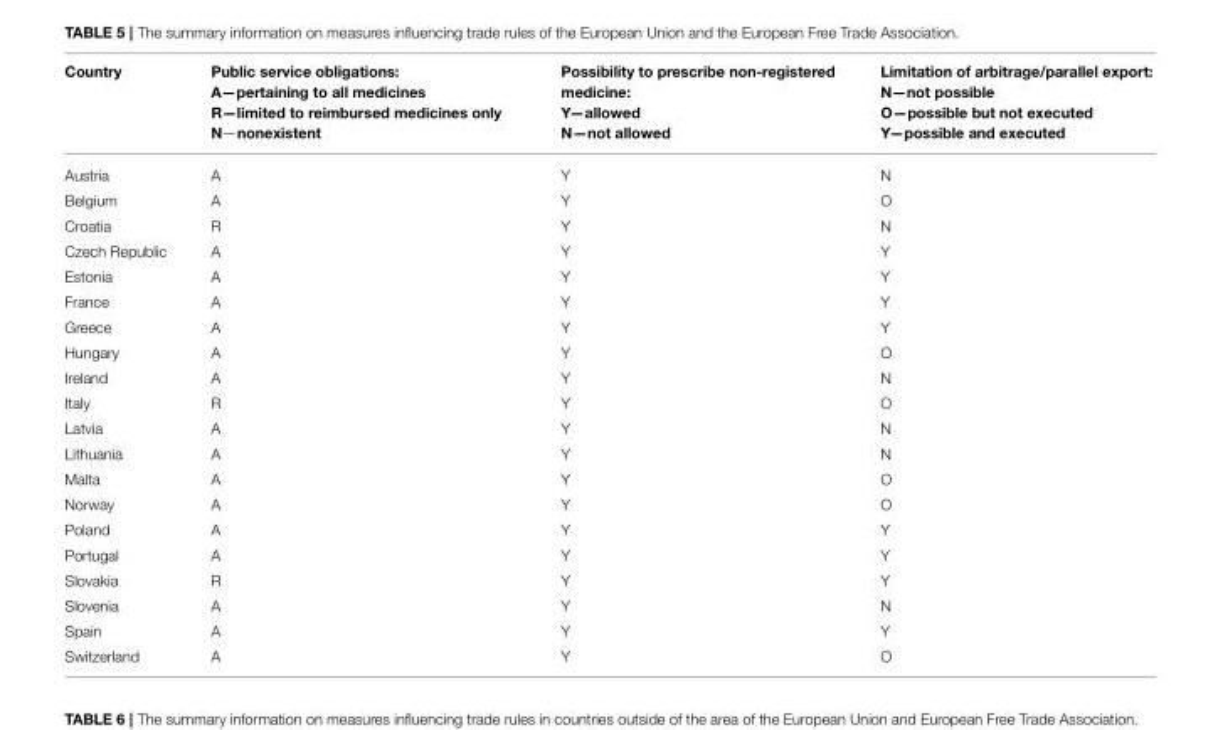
<table><thead><tr><td>Country</td><td>Public service obligations: A—pertaining to all medicines R—limited to reimbursed medicines only N—nonexistent</td><td>Possibility to prescribe non-registered medicine: Y—allowed N—not allowed</td><td>Limitation of arbitrage/parallel export: N—not possible O—possible but not executed Y—possible and executed</td></tr></thead><tbody><tr><td>Austria</td><td>A</td><td>Y</td><td>N</td></tr><tr><td>Belgium</td><td>A</td><td>Y</td><td>O</td></tr><tr><td>Croatia</td><td>R</td><td>Y</td><td>N</td></tr><tr><td>Czech Republic</td><td>A</td><td>Y</td><td>Y</td></tr><tr><td>Estonia</td><td>A</td><td>Y</td><td>Y</td></tr><tr><td>France</td><td>A</td><td>Y</td><td>Y</td></tr><tr><td>Greece</td><td>A</td><td>Y</td><td>Y</td></tr><tr><td>Hungary</td><td>A</td><td>Y</td><td>O</td></tr><tr><td>Ireland</td><td>A</td><td>Y</td><td>N</td></tr><tr><td>Italy</td><td>R</td><td>Y</td><td>O</td></tr><tr><td>Latvia</td><td>A</td><td>Y</td><td>N</td></tr><tr><td>Lithuania</td><td>A</td><td>Y</td><td>N</td></tr><tr><td>Malta</td><td>A</td><td>Y</td><td>O</td></tr><tr><td>Norway</td><td>A</td><td>Y</td><td>O</td></tr><tr><td>Poland</td><td>A</td><td>Y</td><td>Y</td></tr><tr><td>Portugal</td><td>A</td><td>Y</td><td>Y</td></tr><tr><td>Slovakia</td><td>R</td><td>Y</td><td>Y</td></tr><tr><td>Slovenia</td><td>A</td><td>Y</td><td>N</td></tr><tr><td>Spain</td><td>A</td><td>Y</td><td>Y</td></tr><tr><td>Switzerland</td><td>A</td><td>Y</td><td>O</td></tr></tbody></table>